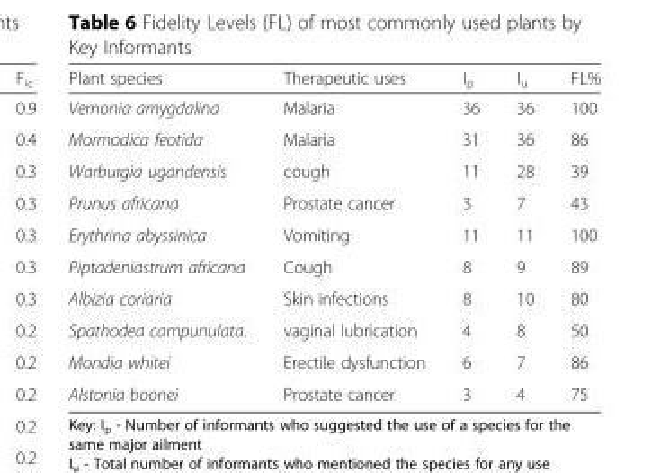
<table><thead><tr><td>Plant species</td><td>Therapeutic uses</td><td>I<sub>p</sub></td><td>I<sub>u</sub></td><td>FL%</td></tr></thead><tbody><tr><td>Vernonia amygdalina</td><td>Malaria</td><td>36</td><td>36</td><td>100</td></tr><tr><td>Mormodica feotida</td><td>Malaria</td><td>31</td><td>36</td><td>86</td></tr><tr><td>Warburgia ugandensis</td><td>cough</td><td>11</td><td>28</td><td>39</td></tr><tr><td>Prunus africana</td><td>Prostate cancer</td><td>3</td><td>7</td><td>43</td></tr><tr><td>Erythrina abyssinica</td><td>Vomiting</td><td>11</td><td>11</td><td>100</td></tr><tr><td>Piptadeniastrum africana</td><td>Cough</td><td>8</td><td>9</td><td>89</td></tr><tr><td>Albizia coriaria</td><td>Skin infections</td><td>8</td><td>10</td><td>80</td></tr><tr><td>Spathodea campunulata.</td><td>vaginal lubrication</td><td>4</td><td>8</td><td>50</td></tr><tr><td>Mondia whitei</td><td>Erectile dysfunction</td><td>6</td><td>7</td><td>86</td></tr><tr><td>Alstonia boonei</td><td>Prostate cancer</td><td>3</td><td>4</td><td>75</td></tr></tbody></table>